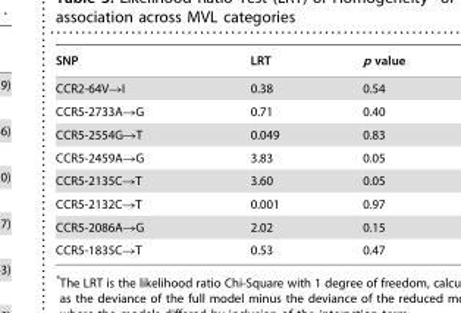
<table><thead><tr><td>SNP</td><td>LRT</td><td>p value</td></tr></thead><tbody><tr><td>CCR2-64V→I</td><td>0.38</td><td>0.54</td></tr><tr><td>CCR5-2733A→G</td><td>0.71</td><td>0.40</td></tr><tr><td>CCR5-2554G→T</td><td>0.049</td><td>0.83</td></tr><tr><td>CCR5-2459A→G</td><td>3.83</td><td>0.05</td></tr><tr><td>CCR5-2135C→T</td><td>3.60</td><td>0.05</td></tr><tr><td>CCR5-2132C→T</td><td>0.001</td><td>0.97</td></tr><tr><td>CCR5-2086A→G</td><td>2.02</td><td>0.15</td></tr><tr><td>CCR5-1835C→T</td><td>0.53</td><td>0.47</td></tr></tbody></table>